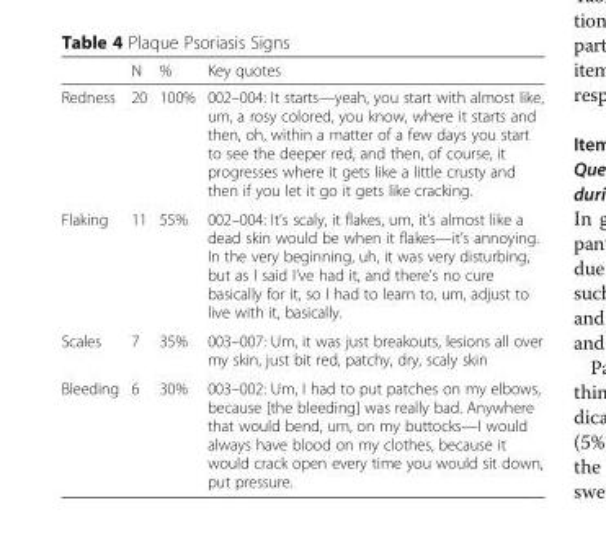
<table><thead><tr><td></td><td>N</td><td>%</td><td>Key quotes</td></tr></thead><tbody><tr><td>Redness</td><td>20</td><td>100%</td><td>002–004: It starts—yeah, you start with almost like, um, a rosy colored, you know, where it starts and then, oh, within a matter of a few days you start to see the deeper red, and then, of course, it progresses where it gets like a little crusty and then if you let it go it gets like cracking.</td></tr><tr><td>Flaking</td><td>11</td><td>55%</td><td>002–004: It’s scaly, it flakes, um, it’s almost like a dead skin would be when it flakes—it’s annoying. In the very beginning, uh, it was very disturbing, but as I said I’ve had it, and there’s no cure basically for it, so I had to learn to, um, adjust to live with it, basically.</td></tr><tr><td>Scales</td><td>7</td><td>35%</td><td>003–007: Um, it was just breakouts, lesions all over my skin, just bit red, patchy, dry, scaly skin</td></tr><tr><td>Bleeding</td><td>6</td><td>30%</td><td>003–002: Um, I had to put patches on my elbows, because [the bleeding] was really bad. Anywhere that would bend, um, on my buttocks—I would always have blood on my clothes, because it would crack open every time you would sit down, put pressure.</td></tr></tbody></table>